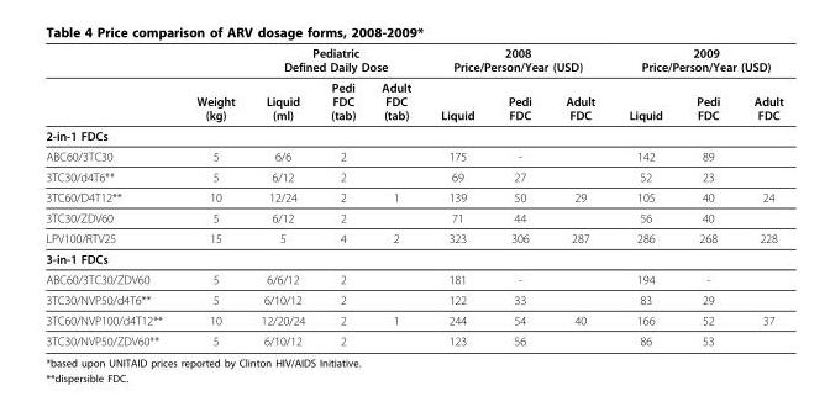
<table><thead><tr><td rowspan="2"></td><td rowspan="2">Weight (kg)</td><td colspan="3">Pediatric Defined Daily Dose</td><td colspan="3">2008 Price/Person/Year (USD)</td><td colspan="3">2009 Price/Person/Year (USD)</td></tr><tr><td>Liquid (ml)</td><td>Pedi FDC (tab)</td><td>Adult FDC (tab)</td><td>Liquid</td><td>Pedi FDC</td><td>Adult FDC</td><td>Liquid</td><td>Pedi FDC</td><td>Adult FDC</td></tr></thead><tbody><tr><td colspan="11">2-in-1 FDCs</td></tr><tr><td>ABC60/3TC30</td><td>5</td><td>6/6</td><td>2</td><td></td><td>175</td><td>-</td><td></td><td>142</td><td>89</td><td></td></tr><tr><td>3TC30/d4T6**</td><td>5</td><td>6/12</td><td>2</td><td></td><td>69</td><td>27</td><td></td><td>52</td><td>23</td><td></td></tr><tr><td>3TC60/D4T12**</td><td>10</td><td>12/24</td><td>2</td><td>1</td><td>139</td><td>50</td><td>29</td><td>105</td><td>40</td><td>24</td></tr><tr><td>3TC30/ZDV60</td><td>5</td><td>6/12</td><td>2</td><td></td><td>71</td><td>44</td><td></td><td>56</td><td>40</td><td></td></tr><tr><td>LPV100/RTV25</td><td>15</td><td>5</td><td>4</td><td>2</td><td>323</td><td>306</td><td>287</td><td>286</td><td>268</td><td>228</td></tr><tr><td colspan="11">3-in-1 FDCs</td></tr><tr><td>ABC60/3TC30/ZDV60</td><td>5</td><td>6/6/12</td><td>2</td><td></td><td>181</td><td>-</td><td></td><td>194</td><td>-</td><td></td></tr><tr><td>3TC30/NVP50/d4T6**</td><td>5</td><td>6/10/12</td><td>2</td><td></td><td>122</td><td>33</td><td></td><td>83</td><td>29</td><td></td></tr><tr><td>3TC60/NVP100/d4T12**</td><td>10</td><td>12/20/24</td><td>2</td><td>1</td><td>244</td><td>54</td><td>40</td><td>166</td><td>52</td><td>37</td></tr><tr><td>3TC30/NVP50/ZDV60**</td><td>5</td><td>6/10/12</td><td>2</td><td></td><td>123</td><td>56</td><td></td><td>86</td><td>53</td><td></td></tr></tbody></table>